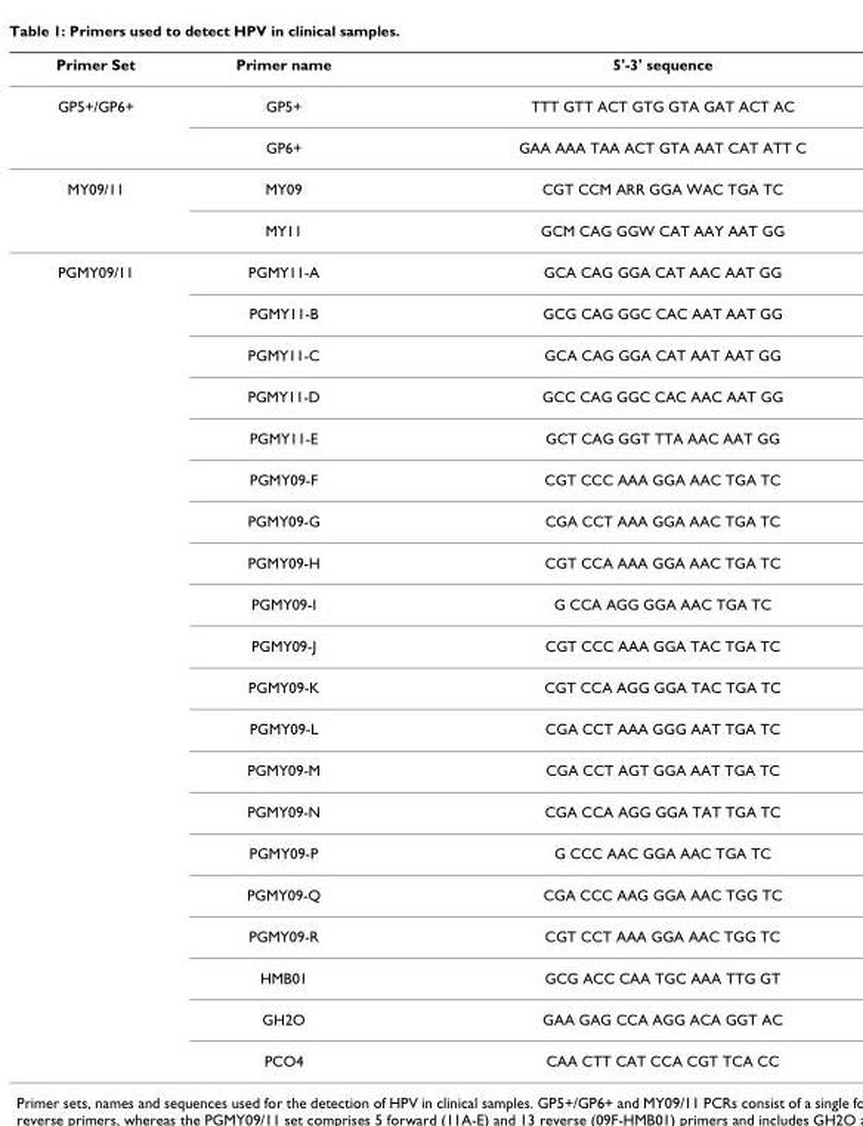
<table><thead><tr><td>Primer Set</td><td>Primer name</td><td>5&#x27;-3&#x27; sequence</td></tr></thead><tbody><tr><td rowspan="2">GP5+/GP6+</td><td>GP5+</td><td>TTT GTT ACT GTG GTA GAT ACT AC</td></tr><tr><td>GP6+</td><td>GAA AAA TAA ACT GTA AAT CAT ATT C</td></tr><tr><td rowspan="2">MY09/11</td><td>MY09</td><td>CGT CCM ARR GGA WAC TGA TC</td></tr><tr><td>MY11</td><td>GCM CAG GGW CAT AAY AAT GG</td></tr><tr><td rowspan="20">PGMY09/11</td><td>PGMY11-A</td><td>GCA CAG GGA CAT AAC AAT GG</td></tr><tr><td>PGMY11-B</td><td>GCG CAG GGC CAC AAT AAT GG</td></tr><tr><td>PGMY11-C</td><td>GCA CAG GGA CAT AAT AAT GG</td></tr><tr><td>PGMY11-D</td><td>GCC CAG GGC CAC AAC AAT GG</td></tr><tr><td>PGMY11-E</td><td>GCT CAG GGT TTA AAC AAT GG</td></tr><tr><td>PGMY09-F</td><td>CGT CCC AAA GGA AAC TGA TC</td></tr><tr><td>PGMY09-G</td><td>CGA CCT AAA GGA AAC TGA TC</td></tr><tr><td>PGMY09-H</td><td>CGT CCA AAA GGA AAC TGA TC</td></tr><tr><td>PGMY09-I</td><td>G CCA AGG GGA AAC TGA TC</td></tr><tr><td>PGMY09-J</td><td>CGT CCC AAA GGA TAC TGA TC</td></tr><tr><td>PGMY09-K</td><td>CGT CCA AGG GGA TAC TGA TC</td></tr><tr><td>PGMY09-L</td><td>CGA CCT AAA GGG AAT TGA TC</td></tr><tr><td>PGMY09-M</td><td>CGA CCT AGT GGA AAT TGA TC</td></tr><tr><td>PGMY09-N</td><td>CGA CCA AGG GGA TAT TGA TC</td></tr><tr><td>PGMY09-P</td><td>G CCC AAC GGA AAC TGA TC</td></tr><tr><td>PGMY09-Q</td><td>CGA CCC AAG GGA AAC TGG TC</td></tr><tr><td>PGMY09-R</td><td>CGT CCT AAA GGA AAC TGG TC</td></tr><tr><td>HMB01</td><td>GCG ACC CAA TGC AAA TTG GT</td></tr><tr><td>GH2O</td><td>GAA GAG CCA AGG ACA GGT AC</td></tr><tr><td>PCO4</td><td>CAA CTT CAT CCA CGT TCA CC</td></tr></tbody></table>